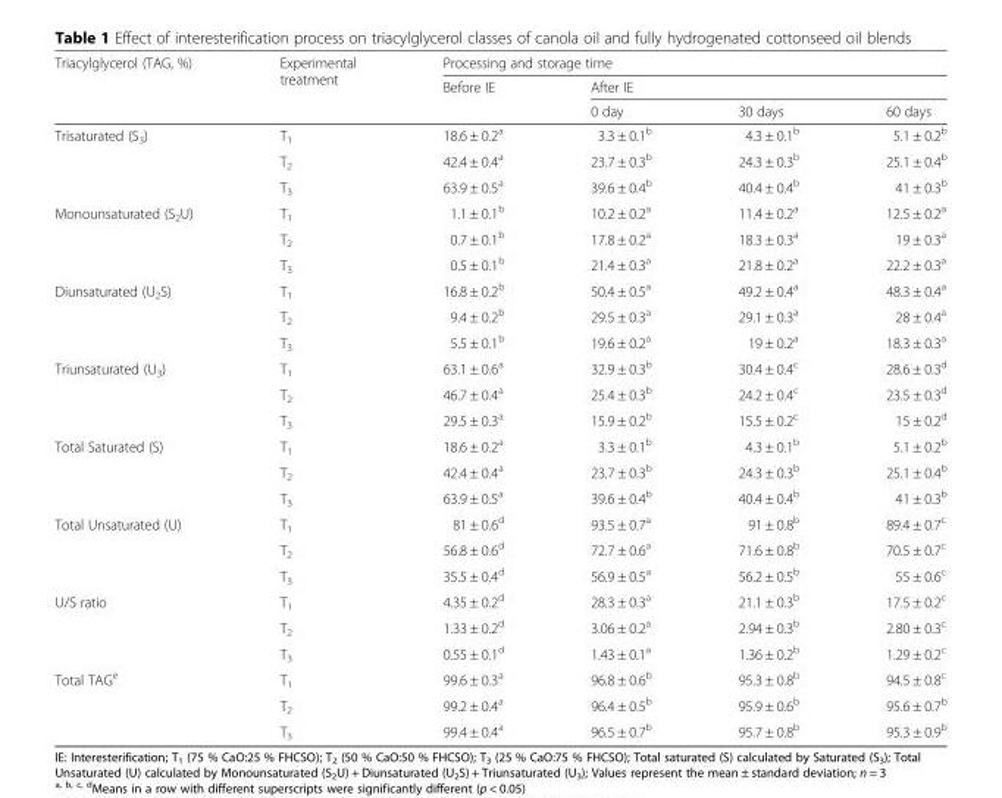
<table><thead><tr><td rowspan="3">Triacylglycerol (TAG, %)</td><td rowspan="3">Experimental treatment</td><td colspan="4">Processing and storage time</td></tr><tr><td rowspan="2">Before IE</td><td colspan="3">After IE</td></tr><tr><td>0 day</td><td>30 days</td><td>60 days</td></tr></thead><tbody><tr><td rowspan="3">Trisaturated (S<sub>3</sub>)</td><td>T<sub>1</sub></td><td>18.6 ± 0.2<sup>a</sup></td><td>3.3 ± 0.1<sup>b</sup></td><td>4.3 ± 0.1<sup>b</sup></td><td>5.1 ± 0.2<sup>b</sup></td></tr><tr><td>T<sub>2</sub></td><td>42.4 ± 0.4<sup>a</sup></td><td>23.7 ± 0.3<sup>b</sup></td><td>24.3 ± 0.3<sup>b</sup></td><td>25.1 ± 0.4<sup>b</sup></td></tr><tr><td>T<sub>3</sub></td><td>63.9 ± 0.5<sup>a</sup></td><td>39.6 ± 0.4<sup>b</sup></td><td>40.4 ± 0.4<sup>b</sup></td><td>41 ± 0.3<sup>b</sup></td></tr><tr><td rowspan="3">Monounsaturated (S<sub>2</sub>U)</td><td>T<sub>1</sub></td><td>1.1 ± 0.1<sup>b</sup></td><td>10.2 ± 0.2<sup>a</sup></td><td>11.4 ± 0.2<sup>a</sup></td><td>12.5 ± 0.2<sup>a</sup></td></tr><tr><td>T<sub>2</sub></td><td>0.7 ± 0.1<sup>b</sup></td><td>17.8 ± 0.2<sup>a</sup></td><td>18.3 ± 0.3<sup>a</sup></td><td>19 ± 0.3<sup>a</sup></td></tr><tr><td>T<sub>3</sub></td><td>0.5 ± 0.1<sup>b</sup></td><td>21.4 ± 0.3<sup>a</sup></td><td>21.8 ± 0.2<sup>a</sup></td><td>22.2 ± 0.3<sup>a</sup></td></tr><tr><td rowspan="3">Diunsaturated (U<sub>2</sub>S)</td><td>T<sub>1</sub></td><td>16.8 ± 0.2<sup>b</sup></td><td>50.4 ± 0.5<sup>a</sup></td><td>49.2 ± 0.4<sup>a</sup></td><td>48.3 ± 0.4<sup>a</sup></td></tr><tr><td>T<sub>2</sub></td><td>9.4 ± 0.2<sup>b</sup></td><td>29.5 ± 0.3<sup>a</sup></td><td>29.1 ± 0.3<sup>a</sup></td><td>28 ± 0.4<sup>a</sup></td></tr><tr><td>T<sub>3</sub></td><td>5.5 ± 0.1<sup>b</sup></td><td>19.6 ± 0.2<sup>a</sup></td><td>19 ± 0.2<sup>a</sup></td><td>18.3 ± 0.3<sup>a</sup></td></tr><tr><td rowspan="3">Triunsaturated (U<sub>3</sub>)</td><td>T<sub>1</sub></td><td>63.1 ± 0.6<sup>a</sup></td><td>32.9 ± 0.3<sup>b</sup></td><td>30.4 ± 0.4<sup>c</sup></td><td>28.6 ± 0.3<sup>d</sup></td></tr><tr><td>T<sub>2</sub></td><td>46.7 ± 0.4<sup>a</sup></td><td>25.4 ± 0.3<sup>b</sup></td><td>24.2 ± 0.4<sup>c</sup></td><td>23.5 ± 0.3<sup>d</sup></td></tr><tr><td>T<sub>3</sub></td><td>29.5 ± 0.3<sup>a</sup></td><td>15.9 ± 0.2<sup>b</sup></td><td>15.5 ± 0.2<sup>c</sup></td><td>15 ± 0.2<sup>d</sup></td></tr><tr><td rowspan="3">Total Saturated (S)</td><td>T<sub>1</sub></td><td>18.6 ± 0.2<sup>a</sup></td><td>3.3 ± 0.1<sup>b</sup></td><td>4.3 ± 0.1<sup>b</sup></td><td>5.1 ± 0.2<sup>b</sup></td></tr><tr><td>T<sub>2</sub></td><td>42.4 ± 0.4<sup>a</sup></td><td>23.7 ± 0.3<sup>b</sup></td><td>24.3 ± 0.3<sup>b</sup></td><td>25.1 ± 0.4<sup>b</sup></td></tr><tr><td>T<sub>3</sub></td><td>63.9 ± 0.5<sup>a</sup></td><td>39.6 ± 0.4<sup>b</sup></td><td>40.4 ± 0.4<sup>b</sup></td><td>41 ± 0.3<sup>b</sup></td></tr><tr><td rowspan="3">Total Unsaturated (U)</td><td>T<sub>1</sub></td><td>81 ± 0.6<sup>d</sup></td><td>93.5 ± 0.7<sup>a</sup></td><td>91 ± 0.8<sup>b</sup></td><td>89.4 ± 0.7<sup>c</sup></td></tr><tr><td>T<sub>2</sub></td><td>56.8 ± 0.6<sup>d</sup></td><td>72.7 ± 0.6<sup>a</sup></td><td>71.6 ± 0.8<sup>b</sup></td><td>70.5 ± 0.7<sup>c</sup></td></tr><tr><td>T<sub>3</sub></td><td>35.5 ± 0.4<sup>d</sup></td><td>56.9 ± 0.5<sup>a</sup></td><td>56.2 ± 0.5<sup>b</sup></td><td>55 ± 0.6<sup>c</sup></td></tr><tr><td rowspan="3">U/S ratio</td><td>T<sub>1</sub></td><td>4.35 ± 0.2<sup>d</sup></td><td>28.3 ± 0.3<sup>a</sup></td><td>21.1 ± 0.3<sup>b</sup></td><td>17.5 ± 0.2<sup>c</sup></td></tr><tr><td>T<sub>2</sub></td><td>1.33 ± 0.2<sup>d</sup></td><td>3.06 ± 0.2<sup>a</sup></td><td>2.94 ± 0.3<sup>b</sup></td><td>2.80 ± 0.3<sup>c</sup></td></tr><tr><td>T<sub>3</sub></td><td>0.55 ± 0.1<sup>d</sup></td><td>1.43 ± 0.1<sup>a</sup></td><td>1.36 ± 0.2<sup>b</sup></td><td>1.29 ± 0.2<sup>c</sup></td></tr><tr><td rowspan="3">Total TAG<sup>e</sup></td><td>T<sub>1</sub></td><td>99.6 ± 0.3<sup>a</sup></td><td>96.8 ± 0.6<sup>b</sup></td><td>95.3 ± 0.8<sup>b</sup></td><td>94.5 ± 0.8<sup>c</sup></td></tr><tr><td>T<sub>2</sub></td><td>99.2 ± 0.4<sup>a</sup></td><td>96.4 ± 0.5<sup>b</sup></td><td>95.9 ± 0.6<sup>b</sup></td><td>95.6 ± 0.7<sup>b</sup></td></tr><tr><td>T<sub>3</sub></td><td>99.4 ± 0.4<sup>a</sup></td><td>96.5 ± 0.7<sup>b</sup></td><td>95.7 ± 0.8<sup>b</sup></td><td>95.3 ± 0.9<sup>b</sup></td></tr></tbody></table>